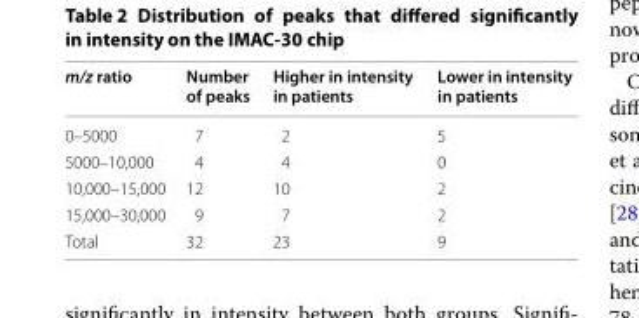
<table><thead><tr><td>m/z ratio</td><td>Number of peaks</td><td>Higher in intensity in patients</td><td>Lower in intensity in patients</td></tr></thead><tbody><tr><td>0–5000</td><td>7</td><td>2</td><td>5</td></tr><tr><td>5000–10,000</td><td>4</td><td>4</td><td>0</td></tr><tr><td>10,000–15,000</td><td>12</td><td>10</td><td>2</td></tr><tr><td>15,000–30,000</td><td>9</td><td>7</td><td>2</td></tr><tr><td>Total</td><td>32</td><td>23</td><td>9</td></tr></tbody></table>